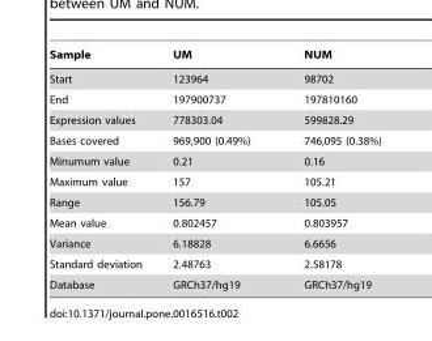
<table><thead><tr><td>Sample</td><td>UM</td><td>NUM</td></tr></thead><tbody><tr><td>Start</td><td>123964</td><td>98702</td></tr><tr><td>End</td><td>197900737</td><td>197810160</td></tr><tr><td>Expression values</td><td>778303.04</td><td>599828.29</td></tr><tr><td>Bases covered</td><td>969,900 (0.49%)</td><td>746,095 (0.38%)</td></tr><tr><td>Minumum value</td><td>0.21</td><td>0.16</td></tr><tr><td>Maximum value</td><td>157</td><td>105.21</td></tr><tr><td>Range</td><td>156.79</td><td>105.05</td></tr><tr><td>Mean value</td><td>0.802457</td><td>0.803957</td></tr><tr><td>Variance</td><td>6.18828</td><td>6.6656</td></tr><tr><td>Standard deviation</td><td>2.48763</td><td>2.58178</td></tr><tr><td>Database</td><td>GRCh37/hg19</td><td>GRCh37/hg19</td></tr></tbody></table>